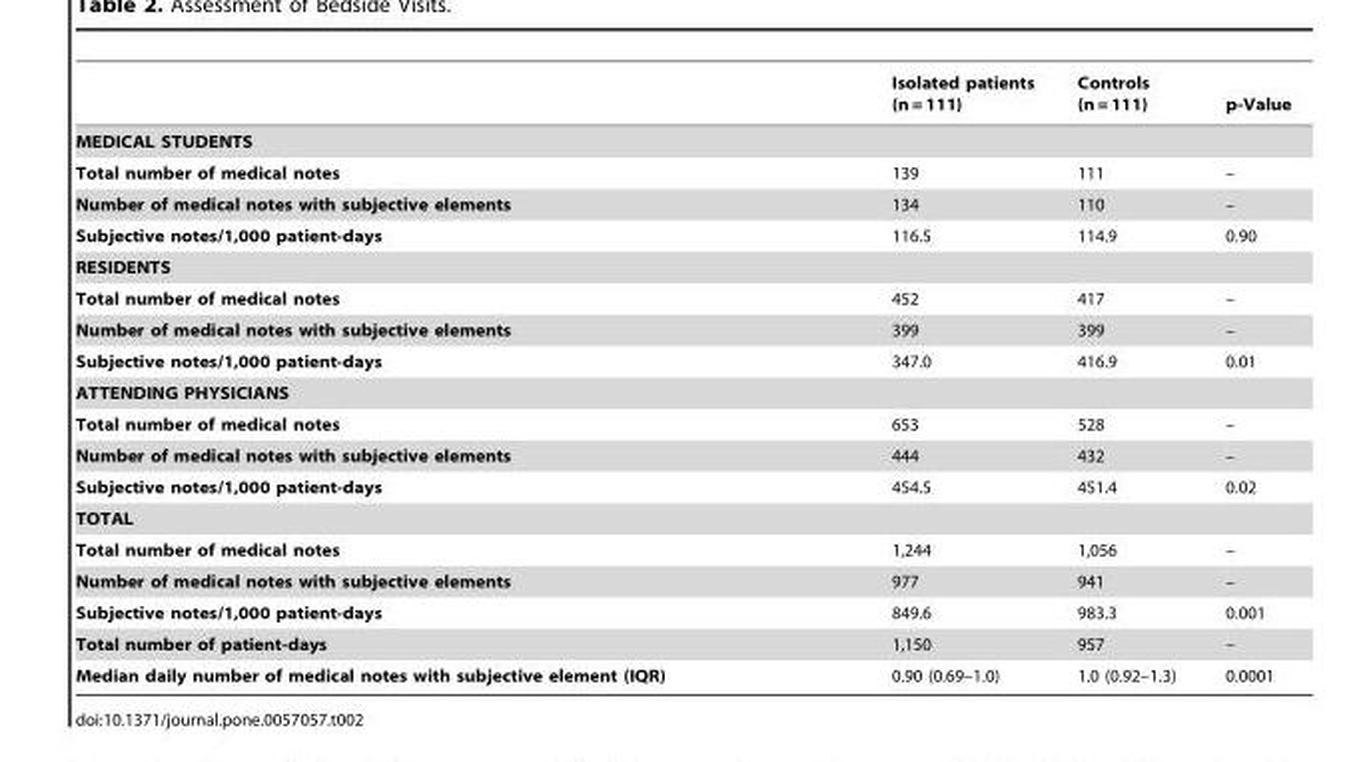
<table><thead><tr><td></td><td>Isolated patients (n = 111)</td><td>Controls (n = 111)</td><td>p-Value</td></tr></thead><tbody><tr><td colspan="4">MEDICAL STUDENTS</td></tr><tr><td>Total number of medical notes</td><td>139</td><td>111</td><td>–</td></tr><tr><td>Number of medical notes with subjective elements</td><td>134</td><td>110</td><td>–</td></tr><tr><td>Subjective notes/1,000 patient-days</td><td>116.5</td><td>114.9</td><td>0.90</td></tr><tr><td colspan="4">RESIDENTS</td></tr><tr><td>Total number of medical notes</td><td>452</td><td>417</td><td>–</td></tr><tr><td>Number of medical notes with subjective elements</td><td>399</td><td>399</td><td>–</td></tr><tr><td>Subjective notes/1,000 patient-days</td><td>347.0</td><td>416.9</td><td>0.01</td></tr><tr><td colspan="4">ATTENDING PHYSICIANS</td></tr><tr><td>Total number of medical notes</td><td>653</td><td>528</td><td>–</td></tr><tr><td>Number of medical notes with subjective elements</td><td>444</td><td>432</td><td>–</td></tr><tr><td>Subjective notes/1,000 patient-days</td><td>454.5</td><td>451.4</td><td>0.02</td></tr><tr><td colspan="4">TOTAL</td></tr><tr><td>Total number of medical notes</td><td>1,244</td><td>1,056</td><td>–</td></tr><tr><td>Number of medical notes with subjective elements</td><td>977</td><td>941</td><td>–</td></tr><tr><td>Subjective notes/1,000 patient-days</td><td>849.6</td><td>983.3</td><td>0.001</td></tr><tr><td>Total number of patient-days</td><td>1,150</td><td>957</td><td>–</td></tr><tr><td>Median daily number of medical notes with subjective element (IQR)</td><td>0.90 (0.69–1.0)</td><td>1.0 (0.92–1.3)</td><td>0.0001</td></tr></tbody></table>